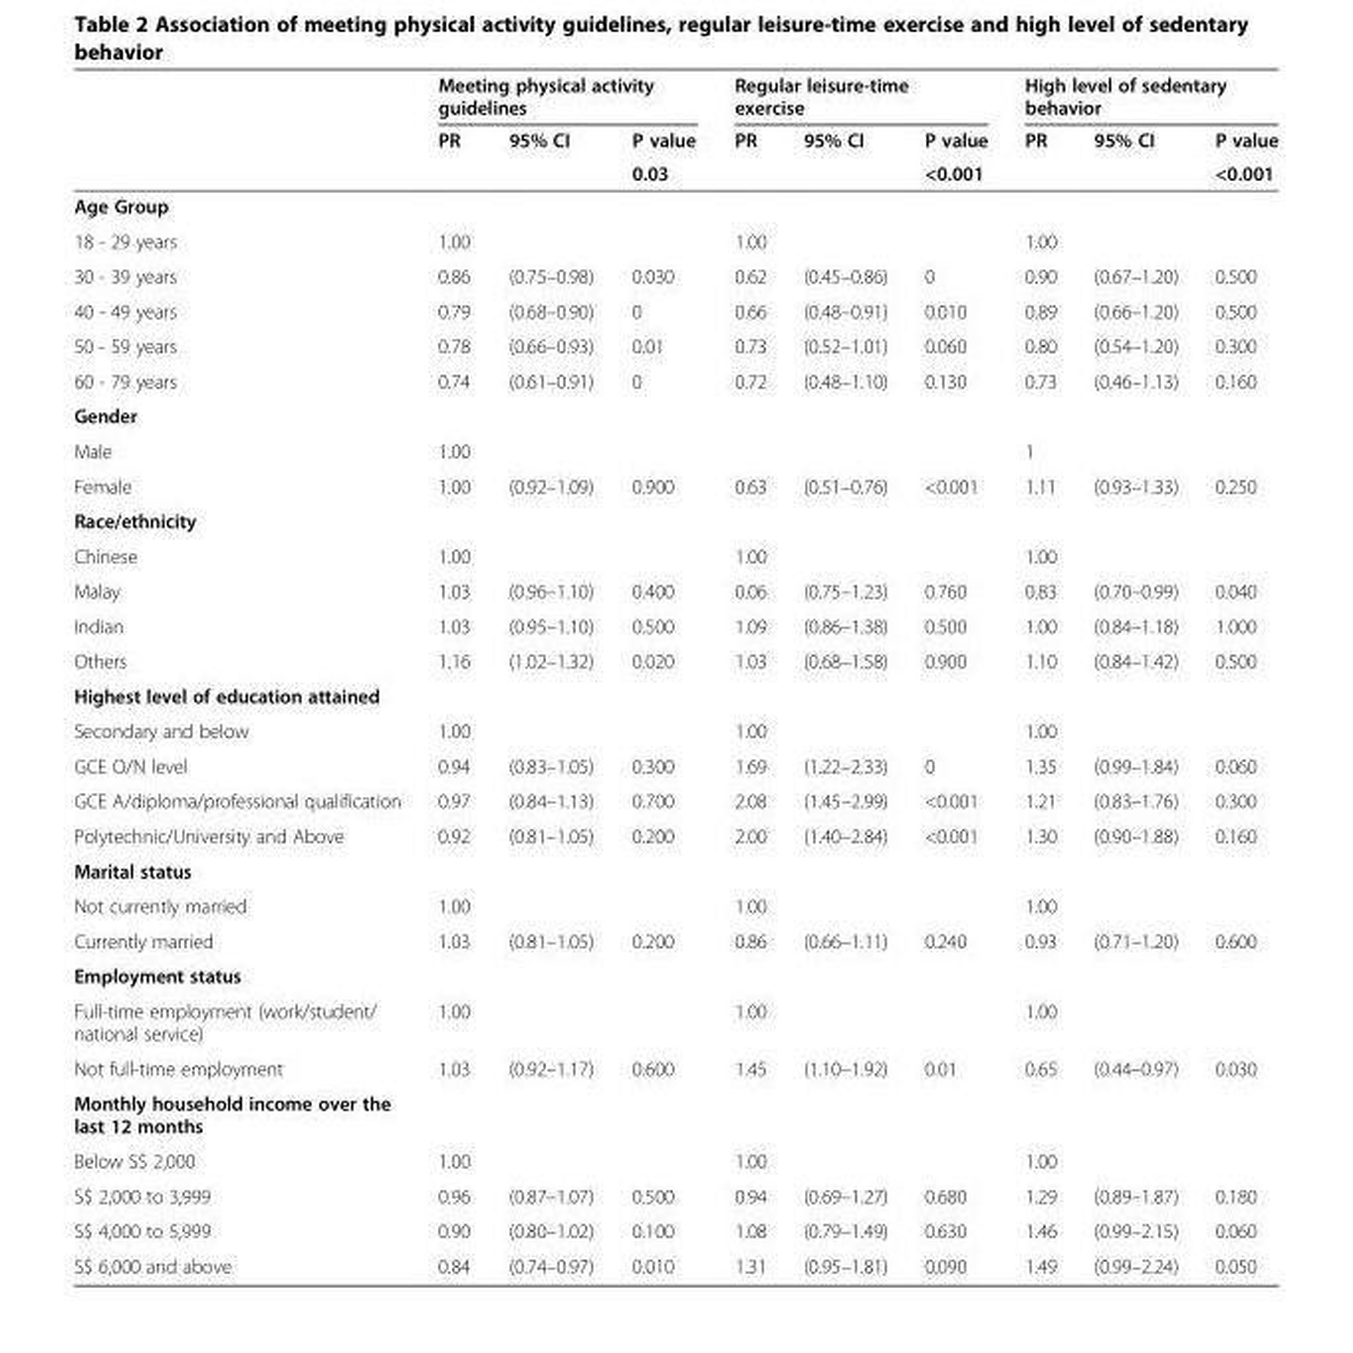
<table><thead><tr><td rowspan="3"></td><td colspan="3">Meeting physical activity guidelines</td><td colspan="3">Regular leisure-time exercise</td><td colspan="3">High level of sedentary behavior</td></tr><tr><td rowspan="2">PR</td><td rowspan="2">95% CI</td><td rowspan="2">P value 0.03</td><td rowspan="2">PR</td><td rowspan="2">95% CI</td><td rowspan="2">P value &lt;0.001</td><td rowspan="2">PR</td><td rowspan="2">95% CI</td><td rowspan="2">P value &lt;0.001</td></tr><tr></tr></thead><tbody><tr><td colspan="10">Age Group</td></tr><tr><td>18 - 29 years</td><td>1.00</td><td></td><td></td><td>1.00</td><td></td><td></td><td>1.00</td><td></td><td></td></tr><tr><td>30 - 39 years</td><td>0.86</td><td>(0.75–0.98)</td><td>0.030</td><td>0.62</td><td>(0.45–0.86)</td><td>0</td><td>0.90</td><td>(0.67–1.20)</td><td>0.500</td></tr><tr><td>40 - 49 years</td><td>0.79</td><td>(0.68–0.90)</td><td>0</td><td>0.66</td><td>(0.48–0.91)</td><td>0.010</td><td>0.89</td><td>(0.66–1.20)</td><td>0.500</td></tr><tr><td>50 - 59 years</td><td>0.78</td><td>(0.66–0.93)</td><td>0.01</td><td>0.73</td><td>(0.52–1.01)</td><td>0.060</td><td>0.80</td><td>(0.54–1.20)</td><td>0.300</td></tr><tr><td>60 - 79 years</td><td>0.74</td><td>(0.61–0.91)</td><td>0</td><td>0.72</td><td>(0.48–1.10)</td><td>0.130</td><td>0.73</td><td>(0.46–1.13)</td><td>0.160</td></tr><tr><td colspan="10">Gender</td></tr><tr><td>Male</td><td>1.00</td><td></td><td></td><td></td><td></td><td></td><td>1</td><td></td><td></td></tr><tr><td>Female</td><td>1.00</td><td>(0.92–1.09)</td><td>0.900</td><td>0.63</td><td>(0.51–0.76)</td><td>&lt;0.001</td><td>1.11</td><td>(0.93–1.33)</td><td>0.250</td></tr><tr><td colspan="10">Race/ethnicity</td></tr><tr><td>Chinese</td><td>1.00</td><td></td><td></td><td>1.00</td><td></td><td></td><td>1.00</td><td></td><td></td></tr><tr><td>Malay</td><td>1.03</td><td>(0.96–1.10)</td><td>0.400</td><td>0.06</td><td>(0.75–1.23)</td><td>0.760</td><td>0.83</td><td>(0.70–0.99)</td><td>0.040</td></tr><tr><td>Indian</td><td>1.03</td><td>(0.95–1.10)</td><td>0.500</td><td>1.09</td><td>(0.86–1.38)</td><td>0.500</td><td>1.00</td><td>(0.84–1.18)</td><td>1.000</td></tr><tr><td>Others</td><td>1.16</td><td>(1.02–1.32)</td><td>0.020</td><td>1.03</td><td>(0.68–1.58)</td><td>0.900</td><td>1.10</td><td>(0.84–1.42)</td><td>0.500</td></tr><tr><td colspan="10">Highest level of education attained</td></tr><tr><td>Secondary and below</td><td>1.00</td><td></td><td></td><td>1.00</td><td></td><td></td><td>1.00</td><td></td><td></td></tr><tr><td>GCE O/N level</td><td>0.94</td><td>(0.83–1.05)</td><td>0.300</td><td>1.69</td><td>(1.22–2.33)</td><td>0</td><td>1.35</td><td>(0.99–1.84)</td><td>0.060</td></tr><tr><td>GCE A/diploma/professional qualification</td><td>0.97</td><td>(0.84–1.13)</td><td>0.700</td><td>2.08</td><td>(1.45–2.99)</td><td>&lt;0.001</td><td>1.21</td><td>(0.83–1.76)</td><td>0.300</td></tr><tr><td>Polytechnic/University and Above</td><td>0.92</td><td>(0.81–1.05)</td><td>0.200</td><td>2.00</td><td>(1.40–2.84)</td><td>&lt;0.001</td><td>1.30</td><td>(0.90–1.88)</td><td>0.160</td></tr><tr><td colspan="10">Marital status</td></tr><tr><td>Not currently married</td><td>1.00</td><td></td><td></td><td>1.00</td><td></td><td></td><td>1.00</td><td></td><td></td></tr><tr><td>Currently married</td><td>1.03</td><td>(0.81–1.05)</td><td>0.200</td><td>0.86</td><td>(0.66–1.11)</td><td>0.240</td><td>0.93</td><td>(0.71–1.20)</td><td>0.600</td></tr><tr><td colspan="10">Employment status</td></tr><tr><td>Full-time employment (work/student/ national service)</td><td>1.00</td><td></td><td></td><td>1.00</td><td></td><td></td><td>1.00</td><td></td><td></td></tr><tr><td>Not full-time employment</td><td>1.03</td><td>(0.92–1.17)</td><td>0.600</td><td>1.45</td><td>(1.10–1.92)</td><td>0.01</td><td>0.65</td><td>(0.44–0.97)</td><td>0.030</td></tr><tr><td colspan="10">Monthly household income over the last 12 months</td></tr><tr><td>Below S$ 2,000</td><td>1.00</td><td></td><td></td><td>1.00</td><td></td><td></td><td>1.00</td><td></td><td></td></tr><tr><td>S$ 2,000 to 3,999</td><td>0.96</td><td>(0.87–1.07)</td><td>0.500</td><td>0.94</td><td>(0.69–1.27)</td><td>0.680</td><td>1.29</td><td>(0.89–1.87)</td><td>0.180</td></tr><tr><td>S$ 4,000 to 5,999</td><td>0.90</td><td>(0.80–1.02)</td><td>0.100</td><td>1.08</td><td>(0.79–1.49)</td><td>0.630</td><td>1.46</td><td>(0.99–2.15)</td><td>0.060</td></tr><tr><td>S$ 6,000 and above</td><td>0.84</td><td>(0.74–0.97)</td><td>0.010</td><td>1.31</td><td>(0.95–1.81)</td><td>0.090</td><td>1.49</td><td>(0.99–2.24)</td><td>0.050</td></tr></tbody></table>